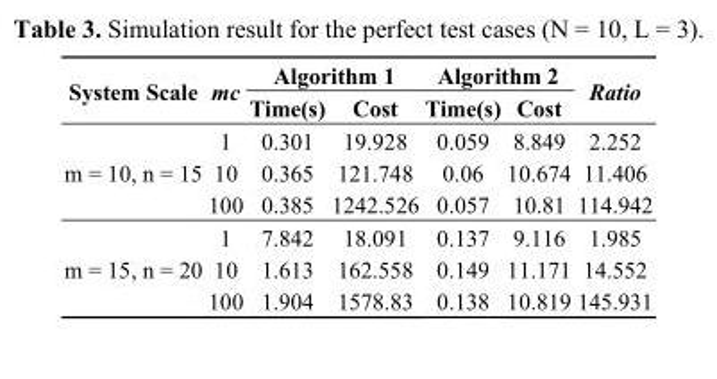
<table><thead><tr><td rowspan="2">System Scale</td><td rowspan="2">mc</td><td colspan="2">Algorithm 1</td><td colspan="2">Algorithm 2</td><td rowspan="2">Ratio</td></tr><tr><td>Time(s)</td><td>Cost</td><td>Time(s)</td><td>Cost</td></tr></thead><tbody><tr><td rowspan="3">m = 10, n = 15</td><td>1</td><td>0.301</td><td>19.928</td><td>0.059</td><td>8.849</td><td>2.252</td></tr><tr><td>10</td><td>0.365</td><td>121.748</td><td>0.06</td><td>10.674</td><td>11.406</td></tr><tr><td>100</td><td>0.385</td><td>1242.526</td><td>0.057</td><td>10.81</td><td>114.942</td></tr><tr><td rowspan="3">m = 15, n = 20</td><td>1</td><td>7.842</td><td>18.091</td><td>0.137</td><td>9.116</td><td>1.985</td></tr><tr><td>10</td><td>1.613</td><td>162.558</td><td>0.149</td><td>11.171</td><td>14.552</td></tr><tr><td>100</td><td>1.904</td><td>1578.83</td><td>0.138</td><td>10.819</td><td>145.931</td></tr></tbody></table>